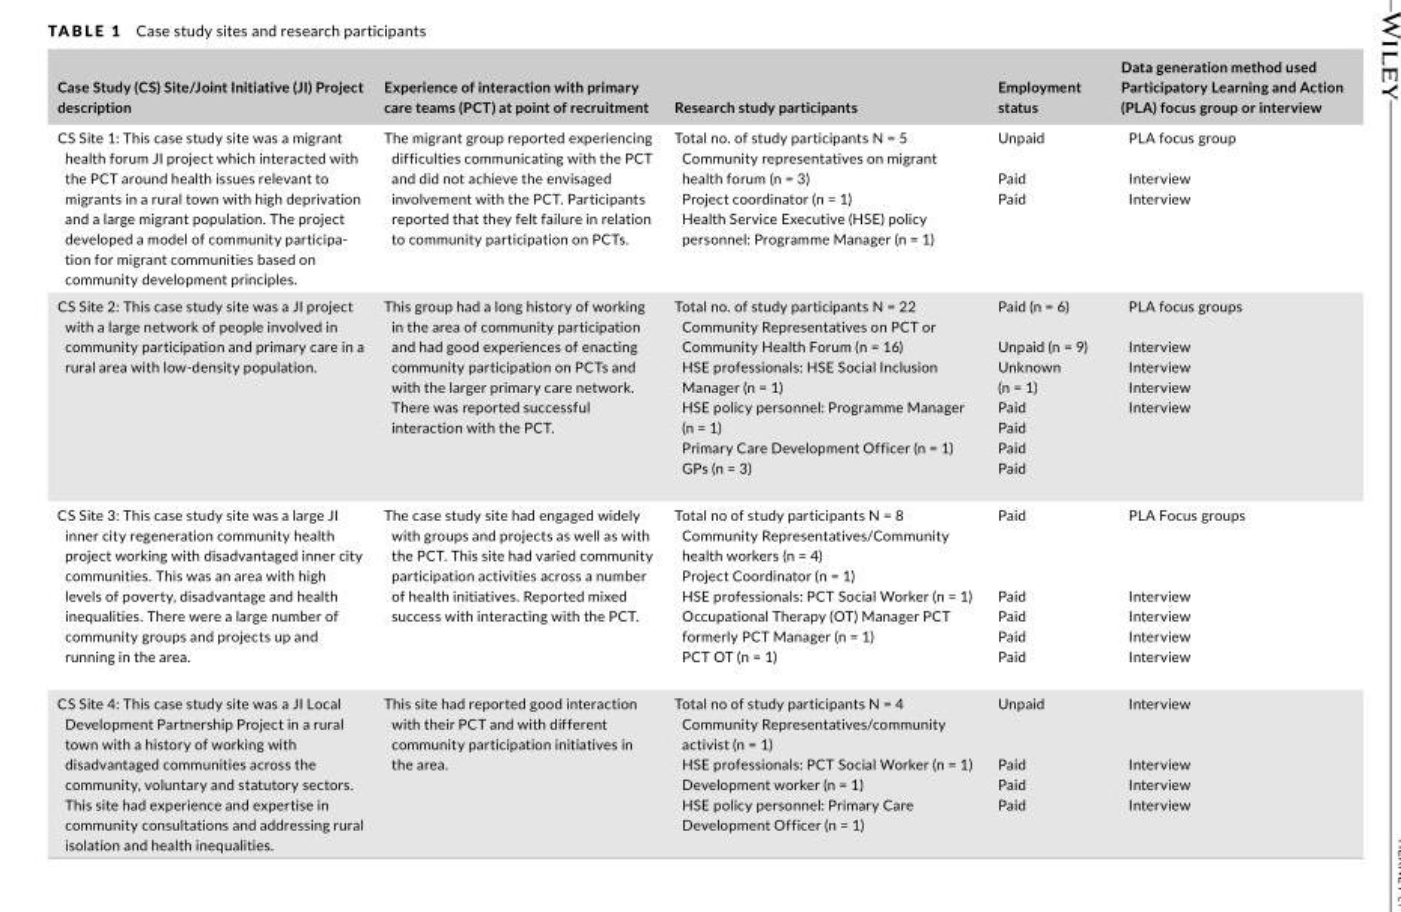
<table><thead><tr><td>Case Study (CS) Site/Joint Initiative (JI) Project description</td><td>Experience of interaction with primary care teams (PCT) at point of recruitment</td><td>Research study participants</td><td>Employment status</td><td>Data generation method used Participatory Learning and Action (PLA) focus group or interview</td></tr></thead><tbody><tr><td>CS Site 1: This case study site was a migrant health forum JI project which interacted with the PCT around health issues relevant to migrants in a rural town with high deprivation and a large migrant population. The project developed a model of community participa- tion for migrant communities based on community development principles.</td><td>The migrant group reported experiencing difficulties communicating with the PCT and did not achieve the envisaged involvement with the PCT. Participants reported that they felt failure in relation to community participation on PCTs.</td><td>Total no. of study participants N = 5 Community representatives on migrant health forum (n = 3) Project coordinator (n = 1) Health Service Executive (HSE) policy personnel: Programme Manager (n = 1)</td><td>Unpaid Paid Paid</td><td>PLA focus group Interview Interview</td></tr><tr><td>CS Site 2: This case study site was a JI project with a large network of people involved in community participation and primary care in a rural area with low- density population.</td><td>This group had a long history of working in the area of community participation and had good experiences of enacting community participation on PCTs and with the larger primary care network. There was reported successful interaction with the PCT.</td><td>Total no. of study participants N = 22 Community Representatives on PCT or Community Health Forum (n = 16) HSE professionals: HSE Social Inclusion Manager (n = 1) HSE policy personnel: Programme Manager (n = 1) Primary Care Development Officer (n = 1) GPs (n = 3)</td><td>Paid (n = 6) Unpaid (n = 9) Unknown (n = 1) Paid Paid Paid Paid</td><td>PLA focus groups Interview Interview Interview Interview</td></tr><tr><td>CS Site 3: This case study site was a large JI inner city regeneration community health project working with disadvantaged inner city communities. This was an area with high levels of poverty, disadvantage and health inequalities. There were a large number of community groups and projects up and running in the area.</td><td>The case study site had engaged widely with groups and projects as well as with the PCT. This site had varied community participation activities across a number of health initiatives. Reported mixed success with interacting with the PCT.</td><td>Total no of study participants N = 8 Community Representatives/Community health workers (n = 4) Project Coordinator (n = 1) HSE professionals: PCT Social Worker (n = 1) Occupational Therapy (OT) Manager PCT formerly PCT Manager (n = 1) PCT OT (n = 1)</td><td>Paid Paid Paid Paid Paid</td><td>PLA Focus groups Interview Interview Interview Interview</td></tr><tr><td>CS Site 4: This case study site was a JI Local Development Partnership Project in a rural town with a history of working with disadvantaged communities across the community, voluntary and statutory sectors. This site had experience and expertise in community consultations and addressing rural isolation and health inequalities.</td><td>This site had reported good interaction with their PCT and with different community participation initiatives in the area.</td><td>Total no of study participants N = 4 Community Representatives/community activist (n = 1) HSE professionals: PCT Social Worker (n = 1) Development worker (n = 1) HSE policy personnel: Primary Care Development Officer (n = 1)</td><td>Unpaid Paid Paid Paid</td><td>Interview Interview Interview Interview</td></tr></tbody></table>